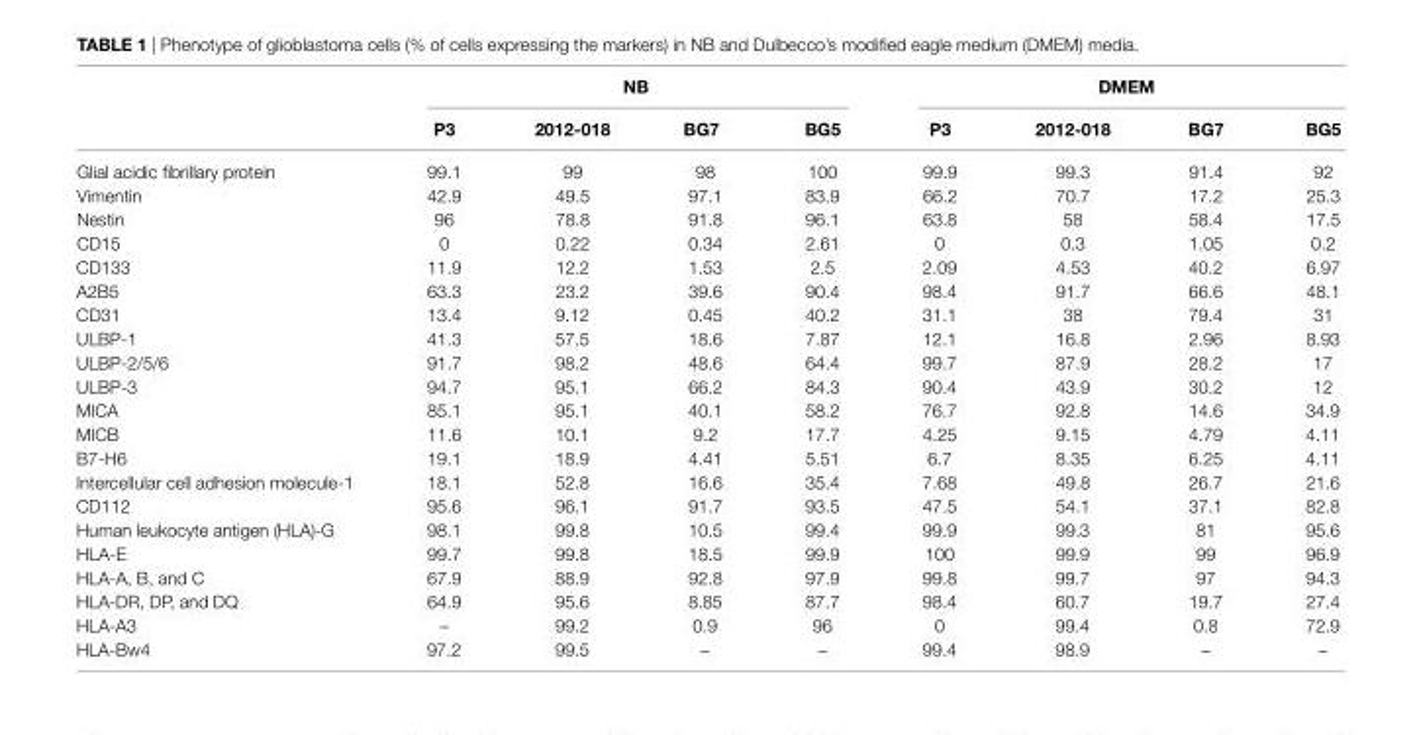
<table><thead><tr><td rowspan="2"></td><td colspan="4">nB</td><td colspan="4">DMeM</td></tr><tr><td>P3</td><td>2012-018</td><td>Bg7</td><td>Bg5</td><td>P3</td><td>2012-018</td><td>Bg7</td><td>Bg5</td></tr></thead><tbody><tr><td>Glial acidic fibrillary protein</td><td>99.1</td><td>99</td><td>98</td><td>100</td><td>99.9</td><td>99.3</td><td>91.4</td><td>92</td></tr><tr><td>Vimentin</td><td>42.9</td><td>49.5</td><td>97.1</td><td>83.9</td><td>66.2</td><td>70.7</td><td>17.2</td><td>25.3</td></tr><tr><td>Nestin</td><td>96</td><td>78.8</td><td>91.8</td><td>96.1</td><td>63.8</td><td>58</td><td>58.4</td><td>17.5</td></tr><tr><td>CD15</td><td>0</td><td>0.22</td><td>0.34</td><td>2.61</td><td>0</td><td>0.3</td><td>1.05</td><td>0.2</td></tr><tr><td>CD133</td><td>11.9</td><td>12.2</td><td>1.53</td><td>2.5</td><td>2.09</td><td>4.53</td><td>40.2</td><td>6.97</td></tr><tr><td>A2B5</td><td>63.3</td><td>23.2</td><td>39.6</td><td>90.4</td><td>98.4</td><td>91.7</td><td>66.6</td><td>48.1</td></tr><tr><td>CD31</td><td>13.4</td><td>9.12</td><td>0.45</td><td>40.2</td><td>31.1</td><td>38</td><td>79.4</td><td>31</td></tr><tr><td>ULBP-1</td><td>41.3</td><td>57.5</td><td>18.6</td><td>7.87</td><td>12.1</td><td>16.8</td><td>2.96</td><td>8.93</td></tr><tr><td>ULBP-2/5/6</td><td>91.7</td><td>98.2</td><td>48.6</td><td>64.4</td><td>99.7</td><td>87.9</td><td>28.2</td><td>17</td></tr><tr><td>ULBP-3</td><td>94.7</td><td>95.1</td><td>66.2</td><td>84.3</td><td>90.4</td><td>43.9</td><td>30.2</td><td>12</td></tr><tr><td>MICA</td><td>85.1</td><td>95.1</td><td>40.1</td><td>58.2</td><td>76.7</td><td>92.8</td><td>14.6</td><td>34.9</td></tr><tr><td>MICB</td><td>11.6</td><td>10.1</td><td>9.2</td><td>17.7</td><td>4.25</td><td>9.15</td><td>4.79</td><td>4.11</td></tr><tr><td>B7-H6</td><td>19.1</td><td>18.9</td><td>4.41</td><td>5.51</td><td>6.7</td><td>8.35</td><td>6.25</td><td>4.11</td></tr><tr><td>Intercellular cell adhesion molecule-1</td><td>18.1</td><td>52.8</td><td>16.6</td><td>35.4</td><td>7.68</td><td>49.8</td><td>26.7</td><td>21.6</td></tr><tr><td>CD112</td><td>95.6</td><td>96.1</td><td>91.7</td><td>93.5</td><td>47.5</td><td>54.1</td><td>37.1</td><td>82.8</td></tr><tr><td>Human leukocyte antigen (HLA)-G</td><td>98.1</td><td>99.8</td><td>10.5</td><td>99.4</td><td>99.9</td><td>99.3</td><td>81</td><td>95.6</td></tr><tr><td>HLA-E</td><td>99.7</td><td>99.8</td><td>18.5</td><td>99.9</td><td>100</td><td>99.9</td><td>99</td><td>96.9</td></tr><tr><td>HLA-A, B, and C</td><td>67.9</td><td>88.9</td><td>92.8</td><td>97.9</td><td>99.8</td><td>99.7</td><td>97</td><td>94.3</td></tr><tr><td>HLA-DR, DP, and DQ</td><td>64.9</td><td>95.6</td><td>8.85</td><td>87.7</td><td>98.4</td><td>60.7</td><td>19.7</td><td>27.4</td></tr><tr><td>HLA-A3</td><td>–</td><td>99.2</td><td>0.9</td><td>96</td><td>0</td><td>99.4</td><td>0.8</td><td>72.9</td></tr><tr><td>HLA-Bw4</td><td>97.2</td><td>99.5</td><td>–</td><td>–</td><td>99.4</td><td>98.9</td><td>–</td><td>–</td></tr></tbody></table>